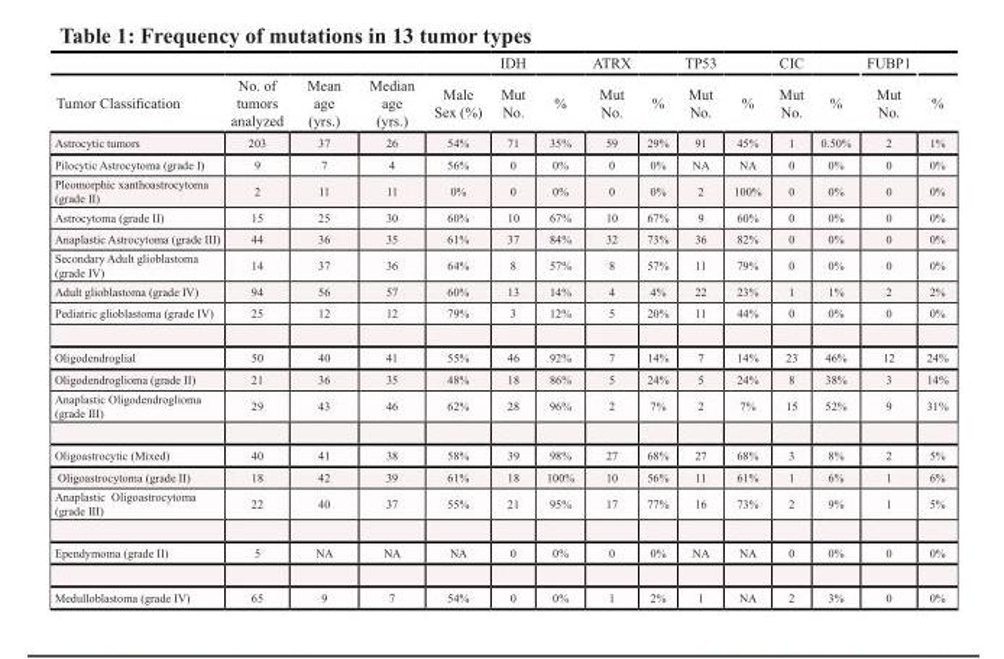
<table><thead><tr><td rowspan="2">Tumor Classification</td><td rowspan="2">No. of tumors analyzed</td><td rowspan="2">Mean age (yrs.)</td><td rowspan="2">Median age (yrs.)</td><td rowspan="2">Male Sex (%)</td><td rowspan="2">IDH Mut No.</td><td rowspan="2">%</td><td rowspan="2">ATRX Mut No.</td><td rowspan="2">%</td><td rowspan="2">TP53 Mut No.</td><td rowspan="2">%</td><td rowspan="2">CIC Mut No.</td><td rowspan="2">%</td><td rowspan="2">FUBP1 Mut No.</td><td rowspan="2">%</td></tr><tr></tr></thead><tbody><tr><td>Astrocytic tumors</td><td>203</td><td>37</td><td>26</td><td>54%</td><td>71</td><td>35%</td><td>59</td><td>29%</td><td>91</td><td>45%</td><td>1</td><td>0.50%</td><td>2</td><td>1%</td></tr><tr><td>Pilocytic Astrocytoma (grade I)</td><td>9</td><td>7</td><td>4</td><td>56%</td><td>0</td><td>0%</td><td>0</td><td>0%</td><td>NA</td><td>NA</td><td>0</td><td>0%</td><td>0</td><td>0%</td></tr><tr><td>Pleomorphic xanthoastrocytoma (grade II)</td><td>2</td><td>11</td><td>11</td><td>0%</td><td>0</td><td>0%</td><td>0</td><td>0%</td><td>2</td><td>100%</td><td>0</td><td>0%</td><td>0</td><td>0%</td></tr><tr><td>Astrocytoma (grade II)</td><td>15</td><td>25</td><td>30</td><td>60%</td><td>10</td><td>67%</td><td>10</td><td>67%</td><td>9</td><td>60%</td><td>0</td><td>0%</td><td>0</td><td>0%</td></tr><tr><td>Anaplastic Astrocytoma (grade III)</td><td>44</td><td>36</td><td>35</td><td>61%</td><td>37</td><td>84%</td><td>32</td><td>73%</td><td>36</td><td>82%</td><td>0</td><td>0%</td><td>0</td><td>0%</td></tr><tr><td>Secondary Adult glioblastoma (grade IV)</td><td>14</td><td>37</td><td>36</td><td>64%</td><td>8</td><td>57%</td><td>8</td><td>57%</td><td>11</td><td>79%</td><td>0</td><td>0%</td><td>0</td><td>0%</td></tr><tr><td>Adult glioblastoma (grade IV)</td><td>94</td><td>56</td><td>57</td><td>60%</td><td>13</td><td>14%</td><td>4</td><td>4%</td><td>22</td><td>23%</td><td>1</td><td>1%</td><td>2</td><td>2%</td></tr><tr><td>Pediatric glioblastoma (grade IV)</td><td>25</td><td>12</td><td>12</td><td>79%</td><td>3</td><td>12%</td><td>5</td><td>20%</td><td>11</td><td>44%</td><td>0</td><td>0%</td><td>0</td><td>0%</td></tr><tr><td>Oligodendroglial</td><td>50</td><td>40</td><td>41</td><td>55%</td><td>46</td><td>92%</td><td>7</td><td>14%</td><td>7</td><td>14%</td><td>23</td><td>46%</td><td>12</td><td>24%</td></tr><tr><td>Oligodendroglioma (grade II)</td><td>21</td><td>36</td><td>35</td><td>48%</td><td>18</td><td>86%</td><td>5</td><td>24%</td><td>5</td><td>24%</td><td>8</td><td>38%</td><td>3</td><td>14%</td></tr><tr><td>Anaplastic Oligodendroglioma (grade III)</td><td>29</td><td>43</td><td>46</td><td>62%</td><td>28</td><td>96%</td><td>2</td><td>7%</td><td>2</td><td>7%</td><td>15</td><td>52%</td><td>9</td><td>31%</td></tr><tr><td>Oligoastrocytic (Mixed)</td><td>40</td><td>41</td><td>38</td><td>58%</td><td>39</td><td>98%</td><td>27</td><td>68%</td><td>27</td><td>68%</td><td>3</td><td>8%</td><td>2</td><td>5%</td></tr><tr><td>Oligoastrocytoma (grade II)</td><td>18</td><td>42</td><td>39</td><td>61%</td><td>18</td><td>100%</td><td>10</td><td>56%</td><td>11</td><td>61%</td><td>1</td><td>6%</td><td>1</td><td>6%</td></tr><tr><td>Anaplastic Oligoastrocytoma (grade III)</td><td>22</td><td>40</td><td>37</td><td>55%</td><td>21</td><td>95%</td><td>17</td><td>77%</td><td>16</td><td>73%</td><td>2</td><td>9%</td><td>1</td><td>5%</td></tr><tr><td>Ependymoma (grade II)</td><td>5</td><td>NA</td><td>NA</td><td>NA</td><td>0</td><td>0%</td><td>0</td><td>0%</td><td>NA</td><td>NA</td><td>0</td><td>0%</td><td>0</td><td>0%</td></tr><tr><td>Medulloblastoma (grade IV)</td><td>65</td><td>9</td><td>7</td><td>54%</td><td>0</td><td>0%</td><td>1</td><td>2%</td><td>1</td><td>NA</td><td>2</td><td>3%</td><td>0</td><td>0%</td></tr></tbody></table>